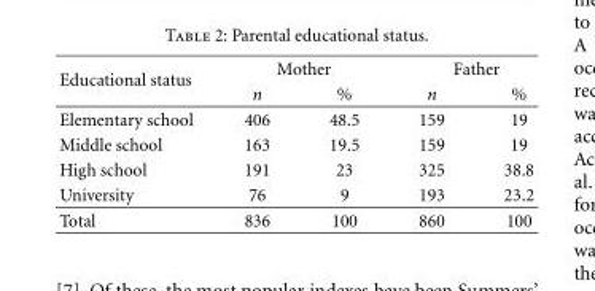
<table><thead><tr><td rowspan="2">Educational status</td><td colspan="2">Mother</td><td colspan="2">Father</td></tr><tr><td>n</td><td>%</td><td>n</td><td>%</td></tr></thead><tbody><tr><td>Elementary school</td><td>406</td><td>48.5</td><td>159</td><td>19</td></tr><tr><td>Middle school</td><td>163</td><td>19.5</td><td>159</td><td>19</td></tr><tr><td>High school</td><td>191</td><td>23</td><td>325</td><td>38.8</td></tr><tr><td>University</td><td>76</td><td>9</td><td>193</td><td>23.2</td></tr><tr><td>Total</td><td>836</td><td>100</td><td>860</td><td>100</td></tr></tbody></table>